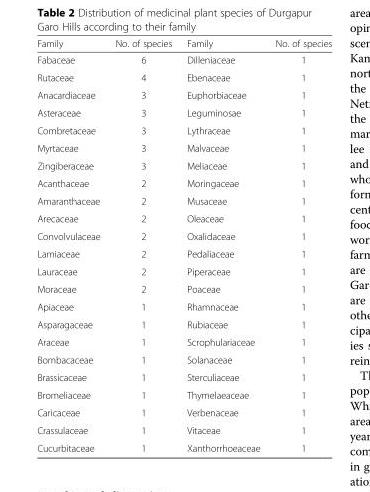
<table><thead><tr><td>Family</td><td>No. of species</td><td>Family</td><td>No. of species</td></tr></thead><tbody><tr><td>Fabaceae</td><td>6</td><td>Dilleniaceae</td><td>1</td></tr><tr><td>Rutaceae</td><td>4</td><td>Ebenaceae</td><td>1</td></tr><tr><td>Anacardiaceae</td><td>3</td><td>Euphorbiaceae</td><td>1</td></tr><tr><td>Asteraceae</td><td>3</td><td>Leguminosae</td><td>1</td></tr><tr><td>Combretaceae</td><td>3</td><td>Lythraceae</td><td>1</td></tr><tr><td>Myrtaceae</td><td>3</td><td>Malvaceae</td><td>1</td></tr><tr><td>Zingiberaceae</td><td>3</td><td>Meliaceae</td><td>1</td></tr><tr><td>Acanthaceae</td><td>2</td><td>Moringaceae</td><td>1</td></tr><tr><td>Amaranthaceae</td><td>2</td><td>Musaceae</td><td>1</td></tr><tr><td>Arecaceae</td><td>2</td><td>Oleaceae</td><td>1</td></tr><tr><td>Convolvulaceae</td><td>2</td><td>Oxalidaceae</td><td>1</td></tr><tr><td>Lamiaceae</td><td>2</td><td>Pedaliaceae</td><td>1</td></tr><tr><td>Lauraceae</td><td>2</td><td>Piperaceae</td><td>1</td></tr><tr><td>Moraceae</td><td>2</td><td>Poaceae</td><td>1</td></tr><tr><td>Apiaceae</td><td>1</td><td>Rhamnaceae</td><td>1</td></tr><tr><td>Asparagaceae</td><td>1</td><td>Rubiaceae</td><td>1</td></tr><tr><td>Araceae</td><td>1</td><td>Scrophulariaceae</td><td>1</td></tr><tr><td>Bombacaceae</td><td>1</td><td>Solanaceae</td><td>1</td></tr><tr><td>Brassicaceae</td><td>1</td><td>Sterculiaceae</td><td>1</td></tr><tr><td>Bromeliaceae</td><td>1</td><td>Thymelaeaceae</td><td>1</td></tr><tr><td>Caricaceae</td><td>1</td><td>Verbenaceae</td><td>1</td></tr><tr><td>Crassulaceae</td><td>1</td><td>Vitaceae</td><td>1</td></tr><tr><td>Cucurbitaceae</td><td>1</td><td>Xanthorrhoeaceae</td><td>1</td></tr></tbody></table>